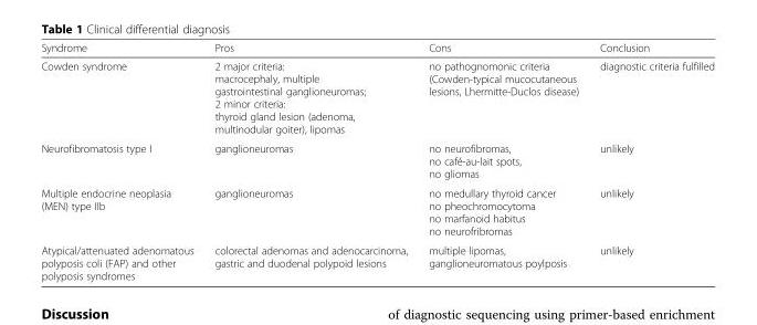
<table><thead><tr><td>Syndrome</td><td>Pros</td><td>Cons</td><td>Conclusion</td></tr></thead><tbody><tr><td>Cowden syndrome</td><td>2 major criteria: macrocephaly, multiple gastrointestinal ganglioneuromas; 2 minor criteria: thyroid gland lesion (adenoma, multinodular goiter), lipomas</td><td>no pathognomonic criteria (Cowden-typical mucocutaneous lesions, Lhermitte-Duclos disease)</td><td>diagnostic criteria fulfilled</td></tr><tr><td>Neurofibromatosis type I</td><td>ganglioneuromas</td><td>no neurofibromas, no café-au-lait spots, no gliomas</td><td>unlikely</td></tr><tr><td>Multiple endocrine neoplasia (MEN) type IIb</td><td>ganglioneuromas</td><td>no medullary thyroid cancer no pheochromocytoma no marfanoid habitus no neurofribromas</td><td>unlikely</td></tr><tr><td>Atypical/attenuated adenomatous polyposis coli (FAP) and other polyposis syndromes</td><td>colorectal adenomas and adenocarcinoma, gastric and duodenal polypoid lesions</td><td>multiple lipomas, ganglioneuromatous poylposis</td><td>unlikely</td></tr></tbody></table>